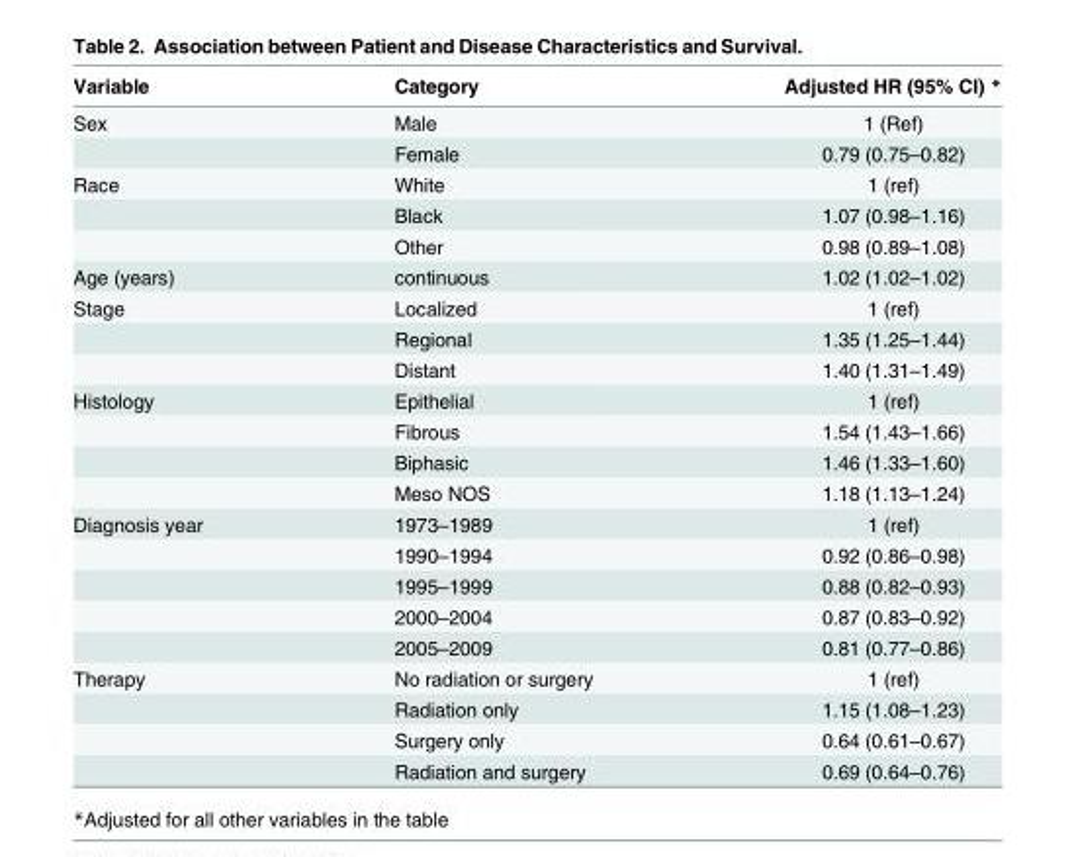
<table><thead><tr><td>Variable</td><td>Category</td><td>Adjusted HR (95% CI) *</td></tr></thead><tbody><tr><td rowspan="2">Sex</td><td>Male</td><td>1 (Ref)</td></tr><tr><td>Female</td><td>0.79 (0.75–0.82)</td></tr><tr><td rowspan="3">Race</td><td>White</td><td>1 (ref)</td></tr><tr><td>Black</td><td>1.07 (0.98–1.16)</td></tr><tr><td>Other</td><td>0.98 (0.89–1.08)</td></tr><tr><td>Age (years)</td><td>continuous</td><td>1.02 (1.02–1.02)</td></tr><tr><td rowspan="3">Stage</td><td>Localized</td><td>1 (ref)</td></tr><tr><td>Regional</td><td>1.35 (1.25–1.44)</td></tr><tr><td>Distant</td><td>1.40 (1.31–1.49)</td></tr><tr><td rowspan="4">Histology</td><td>Epithelial</td><td>1 (ref)</td></tr><tr><td>Fibrous</td><td>1.54 (1.43–1.66)</td></tr><tr><td>Biphasic</td><td>1.46 (1.33–1.60)</td></tr><tr><td>Meso NOS</td><td>1.18 (1.13–1.24)</td></tr><tr><td rowspan="5">Diagnosis year</td><td>1973–1989</td><td>1 (ref)</td></tr><tr><td>1990–1994</td><td>0.92 (0.86–0.98)</td></tr><tr><td>1995–1999</td><td>0.88 (0.82–0.93)</td></tr><tr><td>2000–2004</td><td>0.87 (0.83–0.92)</td></tr><tr><td>2005–2009</td><td>0.81 (0.77–0.86)</td></tr><tr><td rowspan="4">Therapy</td><td>No radiation or surgery</td><td>1 (ref)</td></tr><tr><td>Radiation only</td><td>1.15 (1.08–1.23)</td></tr><tr><td>Surgery only</td><td>0.64 (0.61–0.67)</td></tr><tr><td>Radiation and surgery</td><td>0.69 (0.64–0.76)</td></tr></tbody></table>